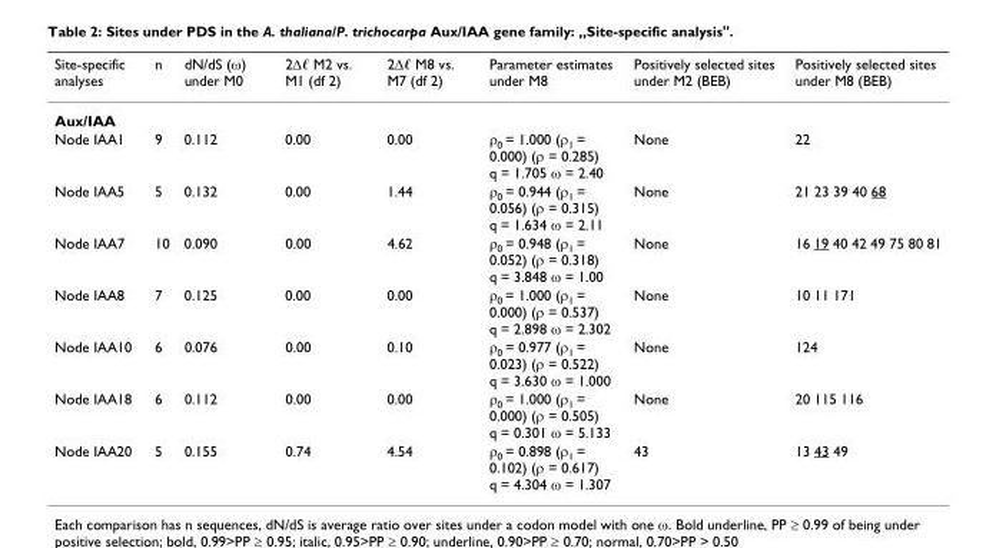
<table><thead><tr><td>Site-specific analyses</td><td>n</td><td>dN/dS (ω) under M0</td><td>2Δℓ M2 vs. M1 (df 2)</td><td>2Δℓ M8 vs. M7 (df 2)</td><td>Parameter estimates under M8</td><td>Positively selected sites under M2 (BEB)</td><td>Positively selected sites under M8 (BEB)</td></tr></thead><tbody><tr><td colspan="8">Aux/IAA</td></tr><tr><td>Node IAA1</td><td>9</td><td>0.112</td><td>0.00</td><td>0.00</td><td>ρ<sub>0</sub> = 1.000 (ρ<sub>1</sub> = 0.000) (ρ = 0.285) q = 1.705 ω = 2.40</td><td>None</td><td>22</td></tr><tr><td>Node IAA5</td><td>5</td><td>0.132</td><td>0.00</td><td>1.44</td><td>ρ<sub>0</sub> = 0.944 (ρ<sub>1</sub> = 0.056) (ρ = 0.315) q = 1.634 ω = 2.11</td><td>None</td><td>21 23 39 40 68</td></tr><tr><td>Node IAA7</td><td>10</td><td>0.090</td><td>0.00</td><td>4.62</td><td>ρ<sub>0</sub> = 0.948 (ρ<sub>1</sub> = 0.052) (ρ = 0.318) q = 3.848 ω = 1.00</td><td>None</td><td>16 19 40 42 49 75 80 81</td></tr><tr><td>Node IAA8</td><td>7</td><td>0.125</td><td>0.00</td><td>0.00</td><td>ρ<sub>0</sub> = 1.000 (ρ<sub>1</sub> = 0.000) (ρ = 0.537) q = 2.898 ω = 2.302</td><td>None</td><td>10 11 171</td></tr><tr><td>Node IAA10</td><td>6</td><td>0.076</td><td>0.00</td><td>0.10</td><td>ρ<sub>0</sub> = 0.977 (ρ<sub>1</sub> = 0.023) (ρ = 0.522) q = 3.630 ω = 1.000</td><td>None</td><td>124</td></tr><tr><td>Node IAA18</td><td>6</td><td>0.112</td><td>0.00</td><td>0.00</td><td>ρ<sub>0</sub> = 1.000 (ρ<sub>1</sub> = 0.000) (ρ = 0.505) q = 0.301 ω = 5.133</td><td>None</td><td>20 115 116</td></tr><tr><td>Node IAA20</td><td>5</td><td>0.155</td><td>0.74</td><td>4.54</td><td>ρ<sub>0</sub> = 0.898 (ρ<sub>1</sub> = 0.102) (ρ = 0.617) q = 4.304 ω = 1.307</td><td>43</td><td>13 43 49</td></tr></tbody></table>